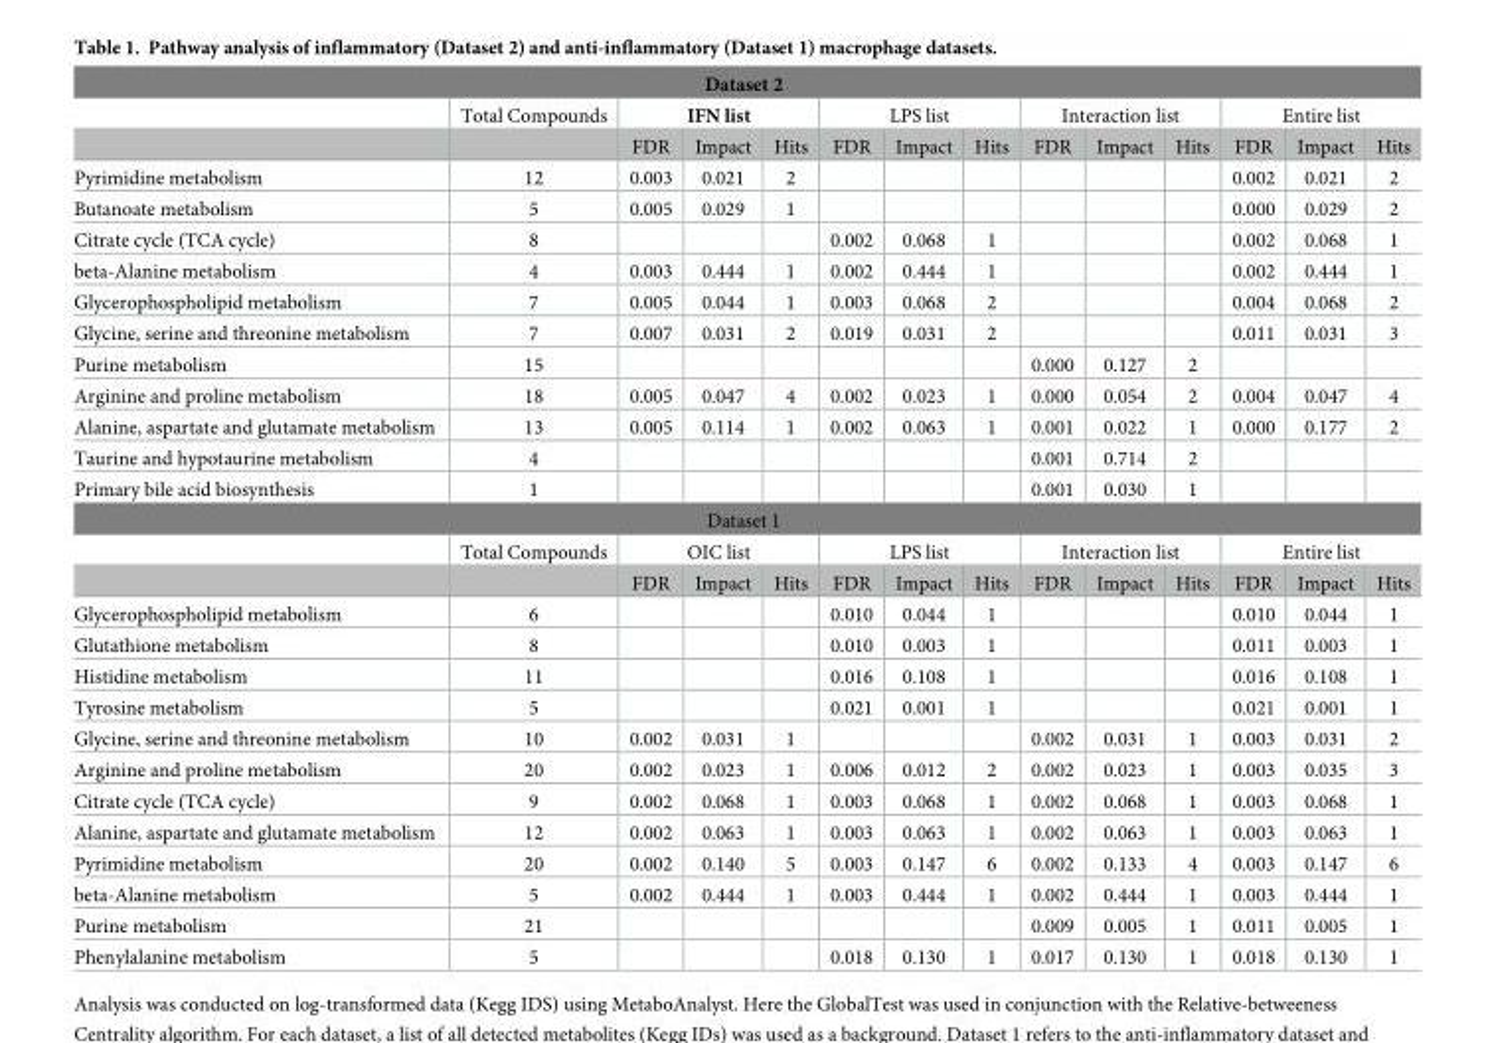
<table><tbody><tr><td colspan="14">Dataset 2</td></tr><tr><td></td><td>Total Compounds</td><td colspan="3">IFN list</td><td colspan="3">LPS list</td><td colspan="3">Interaction list</td><td colspan="3">Entire list</td></tr><tr><td></td><td></td><td>FDR</td><td>Impact</td><td>Hits</td><td>FDR</td><td>Impact</td><td>Hits</td><td>FDR</td><td>Impact</td><td>Hits</td><td>FDR</td><td>Impact</td><td>Hits</td></tr><tr><td>Pyrimidine metabolism</td><td>12</td><td>0.003</td><td>0.021</td><td>2</td><td></td><td></td><td></td><td></td><td></td><td></td><td>0.002</td><td>0.021</td><td>2</td></tr><tr><td>Butanoate metabolism</td><td>5</td><td>0.005</td><td>0.029</td><td>1</td><td></td><td></td><td></td><td></td><td></td><td></td><td>0.000</td><td>0.029</td><td>2</td></tr><tr><td>Citrate cycle (TCA cycle)</td><td>8</td><td></td><td></td><td></td><td>0.002</td><td>0.068</td><td>1</td><td></td><td></td><td></td><td>0.002</td><td>0.068</td><td>1</td></tr><tr><td>beta-Alanine metabolism</td><td>4</td><td>0.003</td><td>0.444</td><td>1</td><td>0.002</td><td>0.444</td><td>1</td><td></td><td></td><td></td><td>0.002</td><td>0.444</td><td>1</td></tr><tr><td>Glycerophospholipid metabolism</td><td>7</td><td>0.005</td><td>0.044</td><td>1</td><td>0.003</td><td>0.068</td><td>2</td><td></td><td></td><td></td><td>0.004</td><td>0.068</td><td>2</td></tr><tr><td>Glycine, serine and threonine metabolism</td><td>7</td><td>0.007</td><td>0.031</td><td>2</td><td>0.019</td><td>0.031</td><td>2</td><td></td><td></td><td></td><td>0.011</td><td>0.031</td><td>3</td></tr><tr><td>Purine metabolism</td><td>15</td><td></td><td></td><td></td><td></td><td></td><td></td><td>0.000</td><td>0.127</td><td>2</td><td></td><td></td><td></td></tr><tr><td>Arginine and proline metabolism</td><td>18</td><td>0.005</td><td>0.047</td><td>4</td><td>0.002</td><td>0.023</td><td>1</td><td>0.000</td><td>0.054</td><td>2</td><td>0.004</td><td>0.047</td><td>4</td></tr><tr><td>Alanine, aspartate and glutamate metabolism</td><td>13</td><td>0.005</td><td>0.114</td><td>1</td><td>0.002</td><td>0.063</td><td>1</td><td>0.001</td><td>0.022</td><td>1</td><td>0.000</td><td>0.177</td><td>2</td></tr><tr><td>Taurine and hypotaurine metabolism</td><td>4</td><td></td><td></td><td></td><td></td><td></td><td></td><td>0.001</td><td>0.714</td><td>2</td><td></td><td></td><td></td></tr><tr><td>Primary bile acid biosynthesis</td><td>1</td><td></td><td></td><td></td><td></td><td></td><td></td><td>0.001</td><td>0.030</td><td>1</td><td></td><td></td><td></td></tr><tr><td colspan="14">Dataset 1</td></tr><tr><td></td><td>Total Compounds</td><td colspan="3">OIC list</td><td colspan="3">LPS list</td><td colspan="3">Interaction list</td><td colspan="3">Entire list</td></tr><tr><td></td><td></td><td>FDR</td><td>Impact</td><td>Hits</td><td>FDR</td><td>Impact</td><td>Hits</td><td>FDR</td><td>Impact</td><td>Hits</td><td>FDR</td><td>Impact</td><td>Hits</td></tr><tr><td>Glycerophospholipid metabolism</td><td>6</td><td></td><td></td><td></td><td>0.010</td><td>0.044</td><td>1</td><td></td><td></td><td></td><td>0.010</td><td>0.044</td><td>1</td></tr><tr><td>Glutathione metabolism</td><td>8</td><td></td><td></td><td></td><td>0.010</td><td>0.003</td><td>1</td><td></td><td></td><td></td><td>0.011</td><td>0.003</td><td>1</td></tr><tr><td>Histidine metabolism</td><td>11</td><td></td><td></td><td></td><td>0.016</td><td>0.108</td><td>1</td><td></td><td></td><td></td><td>0.016</td><td>0.108</td><td>1</td></tr><tr><td>Tyrosine metabolism</td><td>5</td><td></td><td></td><td></td><td>0.021</td><td>0.001</td><td>1</td><td></td><td></td><td></td><td>0.021</td><td>0.001</td><td>1</td></tr><tr><td>Glycine, serine and threonine metabolism</td><td>10</td><td>0.002</td><td>0.031</td><td>1</td><td></td><td></td><td></td><td>0.002</td><td>0.031</td><td>1</td><td>0.003</td><td>0.031</td><td>2</td></tr><tr><td>Arginine and proline metabolism</td><td>20</td><td>0.002</td><td>0.023</td><td>1</td><td>0.006</td><td>0.012</td><td>2</td><td>0.002</td><td>0.023</td><td>1</td><td>0.003</td><td>0.035</td><td>3</td></tr><tr><td>Citrate cycle (TCA cycle)</td><td>9</td><td>0.002</td><td>0.068</td><td>1</td><td>0.003</td><td>0.068</td><td>1</td><td>0.002</td><td>0.068</td><td>1</td><td>0.003</td><td>0.068</td><td>1</td></tr><tr><td>Alanine, aspartate and glutamate metabolism</td><td>12</td><td>0.002</td><td>0.063</td><td>1</td><td>0.003</td><td>0.063</td><td>1</td><td>0.002</td><td>0.063</td><td>1</td><td>0.003</td><td>0.063</td><td>1</td></tr><tr><td>Pyrimidine metabolism</td><td>20</td><td>0.002</td><td>0.140</td><td>5</td><td>0.003</td><td>0.147</td><td>6</td><td>0.002</td><td>0.133</td><td>4</td><td>0.003</td><td>0.147</td><td>6</td></tr><tr><td>beta-Alanine metabolism</td><td>5</td><td>0.002</td><td>0.444</td><td>1</td><td>0.003</td><td>0.444</td><td>1</td><td>0.002</td><td>0.444</td><td>1</td><td>0.003</td><td>0.444</td><td>1</td></tr><tr><td>Purine metabolism</td><td>21</td><td></td><td></td><td></td><td></td><td></td><td></td><td>0.009</td><td>0.005</td><td>1</td><td>0.011</td><td>0.005</td><td>1</td></tr><tr><td>Phenylalanine metabolism</td><td>5</td><td></td><td></td><td></td><td>0.018</td><td>0.130</td><td>1</td><td>0.017</td><td>0.130</td><td>1</td><td>0.018</td><td>0.130</td><td>1</td></tr></tbody></table>